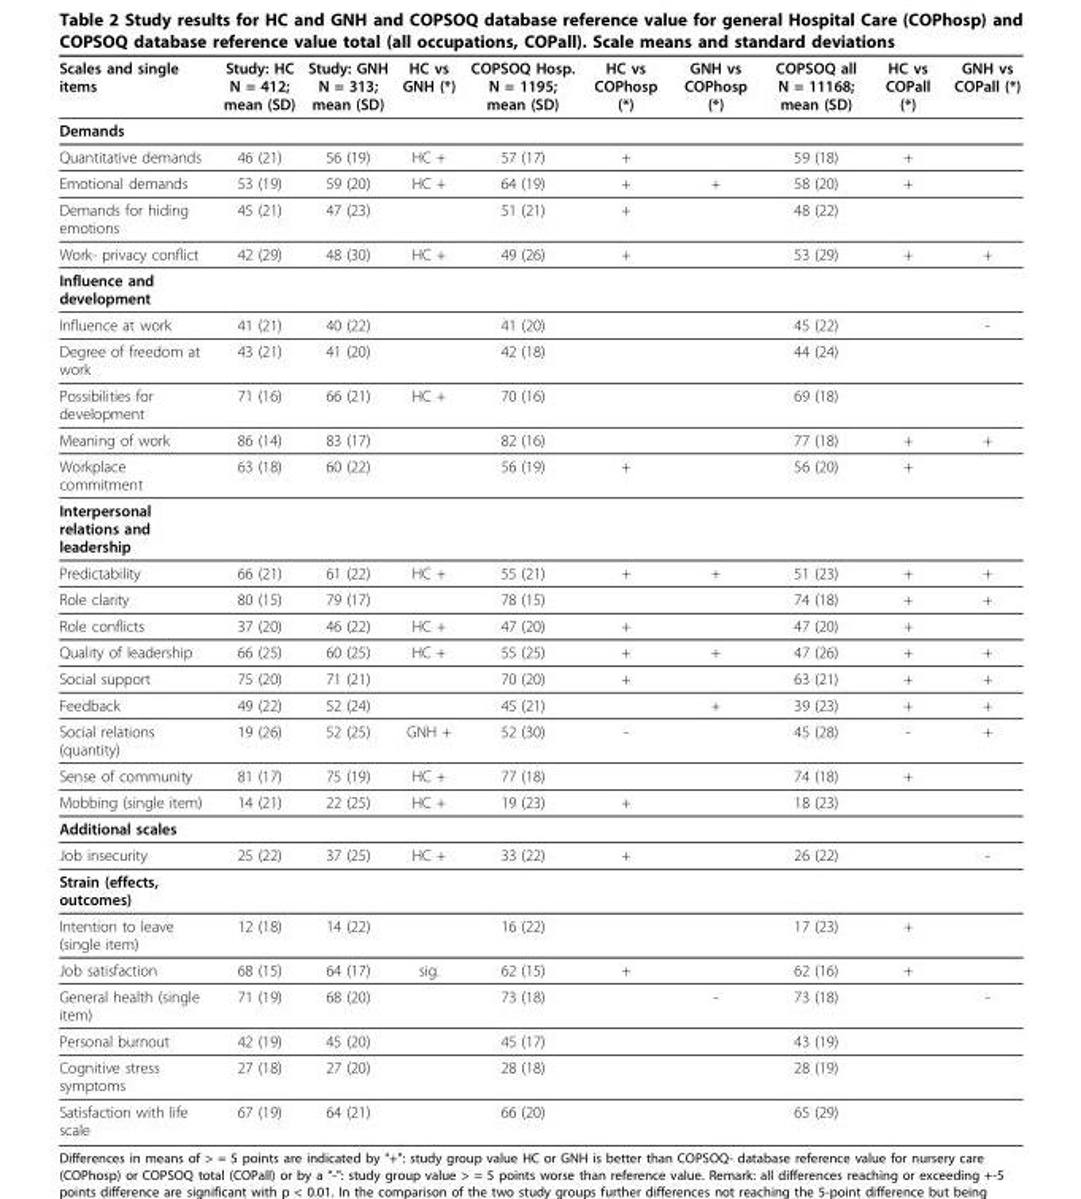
<table><thead><tr><td>Scales and single items</td><td>Study: HC N = 412; mean (SD)</td><td>Study: GNH N = 313; mean (SD)</td><td>HC vs GNH (*)</td><td>COPSOQ Hosp. N = 1195; mean (SD)</td><td>HC vs COPhosp (*)</td><td>GNH vs COPhosp (*)</td><td>COPSOQ all N = 11168; mean (SD)</td><td>HC vs COPall (*)</td><td>GNH vs COPall (*)</td></tr></thead><tbody><tr><td colspan="10">Demands</td></tr><tr><td>Quantitative demands</td><td>46 (21)</td><td>56 (19)</td><td>HC +</td><td>57 (17)</td><td>+</td><td></td><td>59 (18)</td><td>+</td><td></td></tr><tr><td>Emotional demands</td><td>53 (19)</td><td>59 (20)</td><td>HC +</td><td>64 (19)</td><td>+</td><td>+</td><td>58 (20)</td><td>+</td><td></td></tr><tr><td>Demands for hiding emotions</td><td>45 (21)</td><td>47 (23)</td><td></td><td>51 (21)</td><td>+</td><td></td><td>48 (22)</td><td></td><td></td></tr><tr><td>Work- privacy conflict</td><td>42 (29)</td><td>48 (30)</td><td>HC +</td><td>49 (26)</td><td>+</td><td></td><td>53 (29)</td><td>+</td><td>+</td></tr><tr><td colspan="10">Influence and development</td></tr><tr><td>Influence at work</td><td>41 (21)</td><td>40 (22)</td><td></td><td>41 (20)</td><td></td><td></td><td>45 (22)</td><td></td><td>-</td></tr><tr><td>Degree of freedom at work</td><td>43 (21)</td><td>41 (20)</td><td></td><td>42 (18)</td><td></td><td></td><td>44 (24)</td><td></td><td></td></tr><tr><td>Possibilities for development</td><td>71 (16)</td><td>66 (21)</td><td>HC +</td><td>70 (16)</td><td></td><td></td><td>69 (18)</td><td></td><td></td></tr><tr><td>Meaning of work</td><td>86 (14)</td><td>83 (17)</td><td></td><td>82 (16)</td><td></td><td></td><td>77 (18)</td><td>+</td><td>+</td></tr><tr><td>Workplace commitment</td><td>63 (18)</td><td>60 (22)</td><td></td><td>56 (19)</td><td>+</td><td></td><td>56 (20)</td><td>+</td><td></td></tr><tr><td colspan="10">Interpersonal relations and leadership</td></tr><tr><td>Predictability</td><td>66 (21)</td><td>61 (22)</td><td>HC +</td><td>55 (21)</td><td>+</td><td>+</td><td>51 (23)</td><td>+</td><td>+</td></tr><tr><td>Role clarity</td><td>80 (15)</td><td>79 (17)</td><td></td><td>78 (15)</td><td></td><td></td><td>74 (18)</td><td>+</td><td>+</td></tr><tr><td>Role conflicts</td><td>37 (20)</td><td>46 (22)</td><td>HC +</td><td>47 (20)</td><td>+</td><td></td><td>47 (20)</td><td>+</td><td></td></tr><tr><td>Quality of leadership</td><td>66 (25)</td><td>60 (25)</td><td>HC +</td><td>55 (25)</td><td>+</td><td>+</td><td>47 (26)</td><td>+</td><td>+</td></tr><tr><td>Social support</td><td>75 (20)</td><td>71 (21)</td><td></td><td>70 (20)</td><td>+</td><td></td><td>63 (21)</td><td>+</td><td>+</td></tr><tr><td>Feedback</td><td>49 (22)</td><td>52 (24)</td><td></td><td>45 (21)</td><td></td><td>+</td><td>39 (23)</td><td>+</td><td>+</td></tr><tr><td>Social relations (quantity)</td><td>19 (26)</td><td>52 (25)</td><td>GNH +</td><td>52 (30)</td><td>-</td><td></td><td>45 (28)</td><td>-</td><td>+</td></tr><tr><td>Sense of community</td><td>81 (17)</td><td>75 (19)</td><td>HC +</td><td>77 (18)</td><td></td><td></td><td>74 (18)</td><td>+</td><td></td></tr><tr><td>Mobbing (single item)</td><td>14 (21)</td><td>22 (25)</td><td>HC +</td><td>19 (23)</td><td>+</td><td></td><td>18 (23)</td><td></td><td></td></tr><tr><td colspan="10">Additional scales</td></tr><tr><td>Job insecurity</td><td>25 (22)</td><td>37 (25)</td><td>HC +</td><td>33 (22)</td><td>+</td><td></td><td>26 (22)</td><td></td><td>-</td></tr><tr><td colspan="10">Strain (effects, outcomes)</td></tr><tr><td>Intention to leave (single item)</td><td>12 (18)</td><td>14 (22)</td><td></td><td>16 (22)</td><td></td><td></td><td>17 (23)</td><td>+</td><td></td></tr><tr><td>Job satisfaction</td><td>68 (15)</td><td>64 (17)</td><td>sig.</td><td>62 (15)</td><td>+</td><td></td><td>62 (16)</td><td>+</td><td></td></tr><tr><td>General health (single item)</td><td>71 (19)</td><td>68 (20)</td><td></td><td>73 (18)</td><td></td><td>-</td><td>73 (18)</td><td></td><td>-</td></tr><tr><td>Personal burnout</td><td>42 (19)</td><td>45 (20)</td><td></td><td>45 (17)</td><td></td><td></td><td>43 (19)</td><td></td><td></td></tr><tr><td>Cognitive stress symptoms</td><td>27 (18)</td><td>27 (20)</td><td></td><td>28 (18)</td><td></td><td></td><td>28 (19)</td><td></td><td></td></tr><tr><td>Satisfaction with life scale</td><td>67 (19)</td><td>64 (21)</td><td></td><td>66 (20)</td><td></td><td></td><td>65 (29)</td><td></td><td></td></tr></tbody></table>